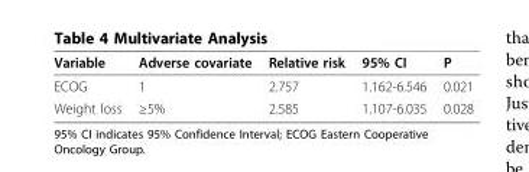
<table><thead><tr><td>Variable</td><td>Adverse covariate</td><td>Relative risk</td><td>95% CI</td><td>P</td></tr></thead><tbody><tr><td>ECOG</td><td>1</td><td>2.757</td><td>1.162-6.546</td><td>0.021</td></tr><tr><td>Weight loss</td><td>≥5%</td><td>2.585</td><td>1.107-6.035</td><td>0.028</td></tr></tbody></table>